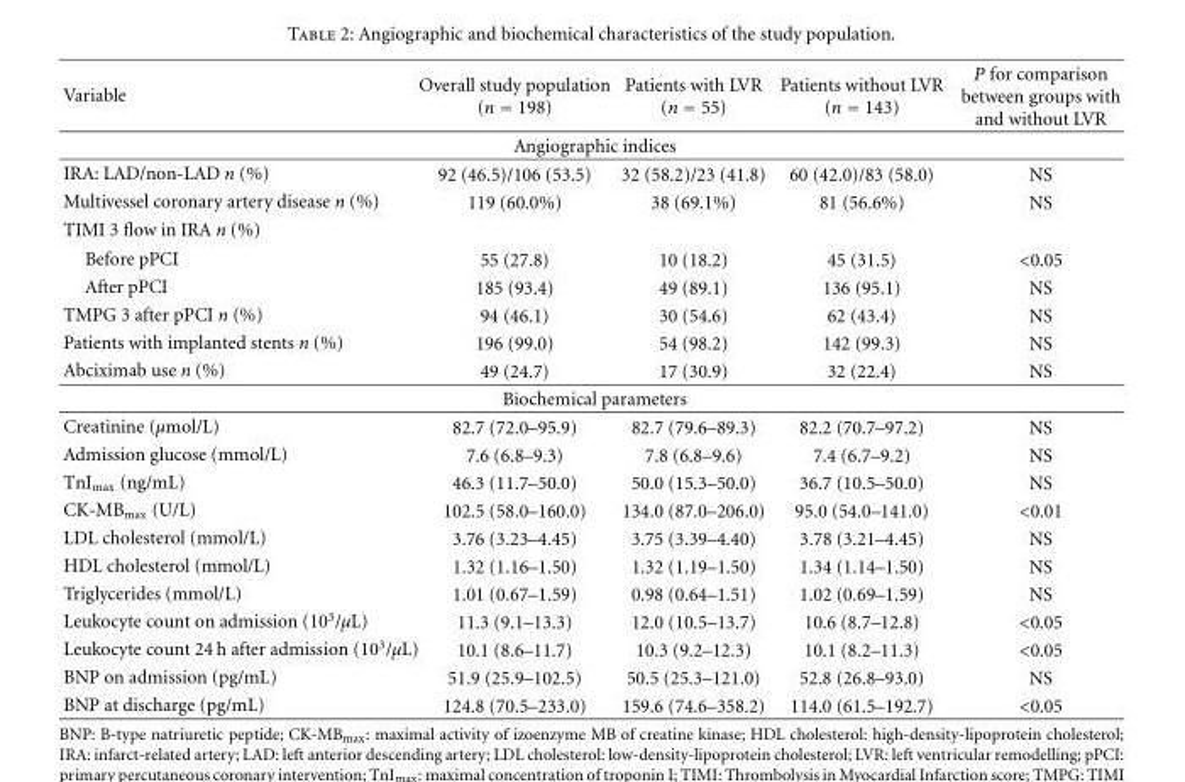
<table><thead><tr><td>Variable</td><td>Overall study population (n = 198)</td><td>Patients with LVR (n = 55)</td><td>Patients without LVR (n = 143)</td><td>P for comparison between groups with and without LVR</td></tr></thead><tbody><tr><td colspan="5">Angiographic indices</td></tr><tr><td>IRA: LAD/non-LAD n (%)</td><td>92 (46.5)/106 (53.5)</td><td>32 (58.2)/23 (41.8)</td><td>60 (42.0)/83 (58.0)</td><td>NS</td></tr><tr><td>Multivessel coronary artery disease n (%)</td><td>119 (60.0%)</td><td>38 (69.1%)</td><td>81 (56.6%)</td><td>NS</td></tr><tr><td colspan="5">TIMI 3 flow in IRA n (%)</td></tr><tr><td>Before pPCI</td><td>55 (27.8)</td><td>10 (18.2)</td><td>45 (31.5)</td><td>&lt;0.05</td></tr><tr><td>After pPCI</td><td>185 (93.4)</td><td>49 (89.1)</td><td>136 (95.1)</td><td>NS</td></tr><tr><td>TMPG 3 after pPCI n (%)</td><td>94 (46.1)</td><td>30 (54.6)</td><td>62 (43.4)</td><td>NS</td></tr><tr><td>Patients with implanted stents n (%)</td><td>196 (99.0)</td><td>54 (98.2)</td><td>142 (99.3)</td><td>NS</td></tr><tr><td>Abciximab use n (%)</td><td>49 (24.7)</td><td>17 (30.9)</td><td>32 (22.4)</td><td>NS</td></tr><tr><td colspan="5">Biochemical parameters</td></tr><tr><td>Creatinine (μmol/L)</td><td>82.7 (72.0–95.9)</td><td>82.7 (79.6–89.3)</td><td>82.2 (70.7–97.2)</td><td>NS</td></tr><tr><td>Admission glucose (mmol/L)</td><td>7.6 (6.8–9.3)</td><td>7.8 (6.8–9.6)</td><td>7.4 (6.7–9.2)</td><td>NS</td></tr><tr><td>TnI<sub>max</sub> (ng/mL)</td><td>46.3 (11.7–50.0)</td><td>50.0 (15.3–50.0)</td><td>36.7 (10.5–50.0)</td><td>NS</td></tr><tr><td>CK-MB<sub>max</sub> (U/L)</td><td>102.5 (58.0–160.0)</td><td>134.0 (87.0–206.0)</td><td>95.0 (54.0–141.0)</td><td>&lt;0.01</td></tr><tr><td>LDL cholesterol (mmol/L)</td><td>3.76 (3.23–4.45)</td><td>3.75 (3.39–4.40)</td><td>3.78 (3.21–4.45)</td><td>NS</td></tr><tr><td>HDL cholesterol (mmol/L)</td><td>1.32 (1.16–1.50)</td><td>1.32 (1.19–1.50)</td><td>1.34 (1.14–1.50)</td><td>NS</td></tr><tr><td>Triglycerides (mmol/L)</td><td>1.01 (0.67–1.59)</td><td>0.98 (0.64–1.51)</td><td>1.02 (0.69–1.59)</td><td>NS</td></tr><tr><td>Leukocyte count on admission (10<sup>3</sup>/μL)</td><td>11.3 (9.1–13.3)</td><td>12.0 (10.5–13.7)</td><td>10.6 (8.7–12.8)</td><td>&lt;0.05</td></tr><tr><td>Leukocyte count 24 h after admission (10<sup>3</sup>/μL)</td><td>10.1 (8.6–11.7)</td><td>10.3 (9.2–12.3)</td><td>10.1 (8.2–11.3)</td><td>&lt;0.05</td></tr><tr><td>BNP on admission (pg/mL)</td><td>51.9 (25.9–102.5)</td><td>50.5 (25.3–121.0)</td><td>52.8 (26.8–93.0)</td><td>NS</td></tr><tr><td>BNP at discharge (pg/mL)</td><td>124.8 (70.5–233.0)</td><td>159.6 (74.6–358.2)</td><td>114.0 (61.5–192.7)</td><td>&lt;0.05</td></tr></tbody></table>